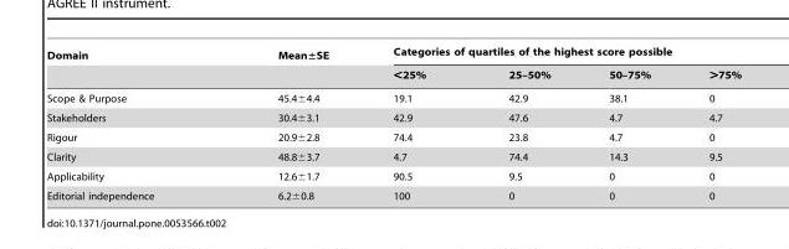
<table><thead><tr><td rowspan="2">Domain</td><td rowspan="2">Mean±SE</td><td colspan="4">Categories of quartiles of the highest score possible</td></tr><tr><td>&lt;25%</td><td>25–50%</td><td>50–75%</td><td>&gt;75%</td></tr></thead><tbody><tr><td>Scope &amp; Purpose</td><td>45.4±4.4</td><td>19.1</td><td>42.9</td><td>38.1</td><td>0</td></tr><tr><td>Stakeholders</td><td>30.4±3.1</td><td>42.9</td><td>47.6</td><td>4.7</td><td>4.7</td></tr><tr><td>Rigour</td><td>20.9±2.8</td><td>74.4</td><td>23.8</td><td>4.7</td><td>0</td></tr><tr><td>Clarity</td><td>48.8±3.7</td><td>4.7</td><td>74.4</td><td>14.3</td><td>9.5</td></tr><tr><td>Applicability</td><td>12.6±1.7</td><td>90.5</td><td>9.5</td><td>0</td><td>0</td></tr><tr><td>Editorial independence</td><td>6.2±0.8</td><td>100</td><td>0</td><td>0</td><td>0</td></tr></tbody></table>